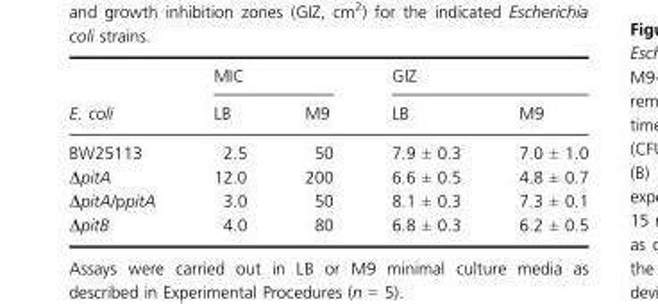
<table><thead><tr><td rowspan="2">E. coli</td><td colspan="2">MIC</td><td colspan="2">GIZ</td></tr><tr><td>LB</td><td>M9</td><td>LB</td><td>M9</td></tr></thead><tbody><tr><td>BW25113</td><td>2.5</td><td>50</td><td>7.9 ± 0.3</td><td>7.0 ± 1.0</td></tr><tr><td>ΔpitA</td><td>12.0</td><td>200</td><td>6.6 ± 0.5</td><td>4.8 ± 0.7</td></tr><tr><td>ΔpitA/ppitA</td><td>3.0</td><td>50</td><td>8.1 ± 0.3</td><td>7.3 ± 0.1</td></tr><tr><td>ΔpitB</td><td>4.0</td><td>80</td><td>6.8 ± 0.3</td><td>6.2 ± 0.5</td></tr></tbody></table>